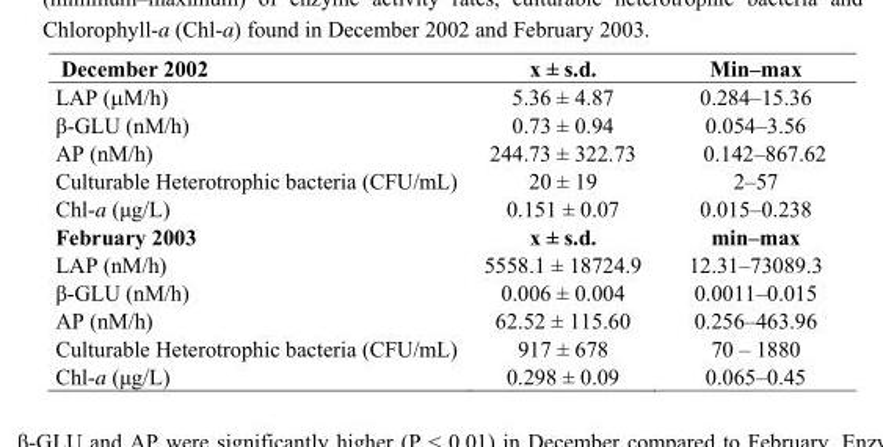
<table><thead><tr><td>December 2002</td><td>x ± s.d.</td><td>Min–max</td></tr></thead><tbody><tr><td>LAP (μM/h)</td><td>5.36 ± 4.87</td><td>0.284–15.36</td></tr><tr><td>β-GLU (nM/h)</td><td>0.73 ± 0.94</td><td>0.054–3.56</td></tr><tr><td>AP (nM/h)</td><td>244.73 ± 322.73</td><td>0.142–867.62</td></tr><tr><td>Culturable Heterotrophic bacteria (CFU/mL)</td><td>20 ± 19</td><td>2–57</td></tr><tr><td>Chl-a (μg/L)</td><td>0.151 ± 0.07</td><td>0.015–0.238</td></tr><tr><td>February 2003</td><td>x ± s.d.</td><td>min–max</td></tr><tr><td>LAP (nM/h)</td><td>5558.1 ± 18724.9</td><td>12.31–73089.3</td></tr><tr><td>β-GLU (nM/h)</td><td>0.006 ± 0.004</td><td>0.0011–0.015</td></tr><tr><td>AP (nM/h)</td><td>62.52 ± 115.60</td><td>0.256–463.96</td></tr><tr><td>Culturable Heterotrophic bacteria (CFU/mL)</td><td>917 ± 678</td><td>70 – 1880</td></tr><tr><td>Chl-a (μg/L)</td><td>0.298 ± 0.09</td><td>0.065–0.45</td></tr></tbody></table>